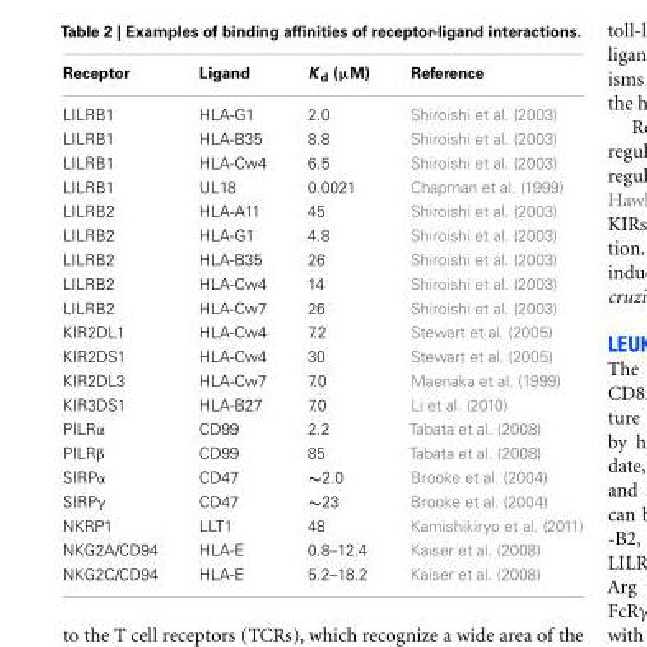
<table><thead><tr><td>Receptor</td><td>Ligand</td><td>K <sub>d</sub> (µM)</td><td>Reference</td></tr></thead><tbody><tr><td>LILRB1</td><td>HLA-G1</td><td>2.0</td><td>Shiroishi et al. (2003)</td></tr><tr><td>LILRB1</td><td>HLA-B35</td><td>8.8</td><td>Shiroishi et al. (2003)</td></tr><tr><td>LILRB1</td><td>HLA-Cw4</td><td>6.5</td><td>Shiroishi et al. (2003)</td></tr><tr><td>LILRB1</td><td>UL18</td><td>0.0021</td><td>Chapman et al. (1999)</td></tr><tr><td>LILRB2</td><td>HLA-A11</td><td>45</td><td>Shiroishi et al. (2003)</td></tr><tr><td>LILRB2</td><td>HLA-G1</td><td>4.8</td><td>Shiroishi et al. (2003)</td></tr><tr><td>LILRB2</td><td>HLA-B35</td><td>26</td><td>Shiroishi et al. (2003)</td></tr><tr><td>LILRB2</td><td>HLA-Cw4</td><td>14</td><td>Shiroishi et al. (2003)</td></tr><tr><td>LILRB2</td><td>HLA-Cw7</td><td>26</td><td>Shiroishi et al. (2003)</td></tr><tr><td>KIR2DL1</td><td>HLA-Cw4</td><td>7.2</td><td>Stewart et al. (2005)</td></tr><tr><td>KIR2DS1</td><td>HLA-Cw4</td><td>30</td><td>Stewart et al. (2005)</td></tr><tr><td>KIR2DL3</td><td>HLA-Cw7</td><td>7.0</td><td>Maenaka et al. (1999)</td></tr><tr><td>KIR3DS1</td><td>HLA-B27</td><td>7.0</td><td>Li et al. (2010)</td></tr><tr><td>PILRα</td><td>CD99</td><td>2.2</td><td>Tabata et al. (2008)</td></tr><tr><td>PILRβ</td><td>CD99</td><td>85</td><td>Tabata et al. (2008)</td></tr><tr><td>SIRPα</td><td>CD47</td><td>∼2.0</td><td>Brooke et al. (2004)</td></tr><tr><td>SIRPγ</td><td>CD47</td><td>∼23</td><td>Brooke et al. (2004)</td></tr><tr><td>NKRP1</td><td>LLT1</td><td>48</td><td>Kamishikiryo et al. (2011)</td></tr><tr><td>NKG2A/CD94</td><td>HLA-E</td><td>0.8–12.4</td><td>Kaiser et al. (2008)</td></tr><tr><td>NKG2C/CD94</td><td>HLA-E</td><td>5.2–18.2</td><td>Kaiser et al. (2008)</td></tr></tbody></table>